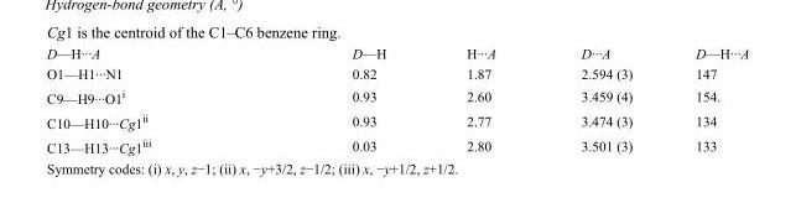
<table><tbody><tr><td>D—H···A</td><td>D—H</td><td>H···A</td><td>D···A</td><td>D—H···A</td></tr><tr><td>O1—H1···N1</td><td>0.82</td><td>1.87</td><td>2.594 (3)</td><td>147</td></tr><tr><td>C9—H9···O1<sup>i</sup></td><td>0.93</td><td>2.60</td><td>3.459 (4)</td><td>154.</td></tr><tr><td>C10—H10···Cg1<sup>ii</sup></td><td>0.93</td><td>2.77</td><td>3.474 (3)</td><td>134</td></tr><tr><td>C13—H13···Cg1<sup>iii</sup></td><td>0.03</td><td>2.80</td><td>3.501 (3)</td><td>133</td></tr></tbody></table>